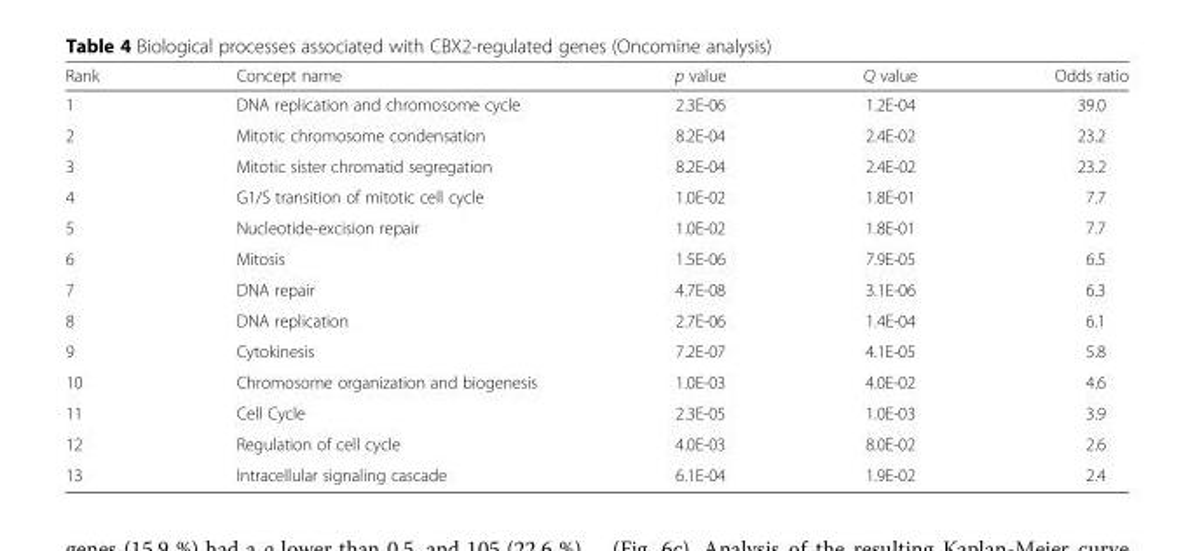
<table><thead><tr><td>Rank</td><td>Concept name</td><td>p value</td><td>Q value</td><td>Odds ratio</td></tr></thead><tbody><tr><td>1</td><td>DNA replication and chromosome cycle</td><td>2.3E-06</td><td>1.2E-04</td><td>39.0</td></tr><tr><td>2</td><td>Mitotic chromosome condensation</td><td>8.2E-04</td><td>2.4E-02</td><td>23.2</td></tr><tr><td>3</td><td>Mitotic sister chromatid segregation</td><td>8.2E-04</td><td>2.4E-02</td><td>23.2</td></tr><tr><td>4</td><td>G1/S transition of mitotic cell cycle</td><td>1.0E-02</td><td>1.8E-01</td><td>7.7</td></tr><tr><td>5</td><td>Nucleotide-excision repair</td><td>1.0E-02</td><td>1.8E-01</td><td>7.7</td></tr><tr><td>6</td><td>Mitosis</td><td>1.5E-06</td><td>7.9E-05</td><td>6.5</td></tr><tr><td>7</td><td>DNA repair</td><td>4.7E-08</td><td>3.1E-06</td><td>6.3</td></tr><tr><td>8</td><td>DNA replication</td><td>2.7E-06</td><td>1.4E-04</td><td>6.1</td></tr><tr><td>9</td><td>Cytokinesis</td><td>7.2E-07</td><td>4.1E-05</td><td>5.8</td></tr><tr><td>10</td><td>Chromosome organization and biogenesis</td><td>1.0E-03</td><td>4.0E-02</td><td>4.6</td></tr><tr><td>11</td><td>Cell Cycle</td><td>2.3E-05</td><td>1.0E-03</td><td>3.9</td></tr><tr><td>12</td><td>Regulation of cell cycle</td><td>4.0E-03</td><td>8.0E-02</td><td>2.6</td></tr><tr><td>13</td><td>Intracellular signaling cascade</td><td>6.1E-04</td><td>1.9E-02</td><td>2.4</td></tr></tbody></table>